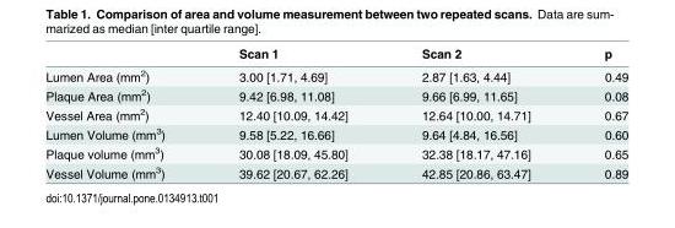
<table><thead><tr><td></td><td>Scan 1</td><td>Scan 2</td><td>p</td></tr></thead><tbody><tr><td>Lumen Area (mm<sup>2</sup>)</td><td>3.00 [1.71, 4.69]</td><td>2.87 [1.63, 4.44]</td><td>0.49</td></tr><tr><td>Plaque Area (mm<sup>2</sup>)</td><td>9.42 [6.98, 11.08]</td><td>9.66 [6.99, 11.65]</td><td>0.08</td></tr><tr><td>Vessel Area (mm<sup>2</sup>)</td><td>12.40 [10.09, 14.42]</td><td>12.64 [10.00, 14.71]</td><td>0.67</td></tr><tr><td>Lumen Volume (mm<sup>3</sup>)</td><td>9.58 [5.22, 16.66]</td><td>9.64 [4.84, 16.56]</td><td>0.60</td></tr><tr><td>Plaque volume (mm<sup>3</sup>)</td><td>30.08 [18.09, 45.80]</td><td>32.38 [18.17, 47.16]</td><td>0.65</td></tr><tr><td>Vessel Volume (mm<sup>3</sup>)</td><td>39.62 [20.67, 62.26]</td><td>42.85 [20.86, 63.47]</td><td>0.89</td></tr></tbody></table>